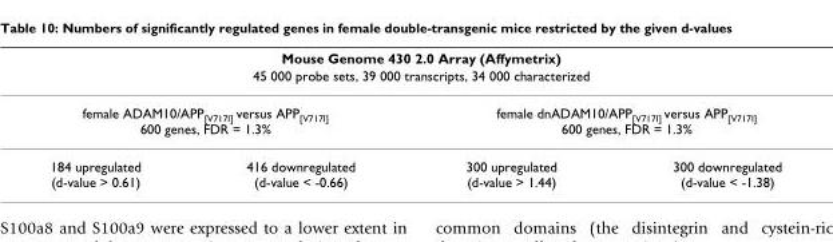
<table><thead><tr><td rowspan="2" colspan="4">Mouse Genome 430 2.0 Array (Affymetrix) 45 000 probe sets, 39 000 transcripts, 34 000 characterized</td></tr><tr></tr><tr><td colspan="2">female ADAM10/APP[V717I] versus APP[V717I] 600 genes, FDR = 1.3%</td><td colspan="2">female dnADAM10/APP[V717I] versus APP[V717I] 600 genes, FDR = 1.3%</td></tr><tr><td>184 upregulated (d-value &gt; 0.61)</td><td>416 downregulated (d-value &lt; -0.66)</td><td>300 upregulated (d-value &gt; 1.44)</td><td>300 downregulated (d-value &lt; -1.38)</td></tr></thead><tbody></tbody></table>